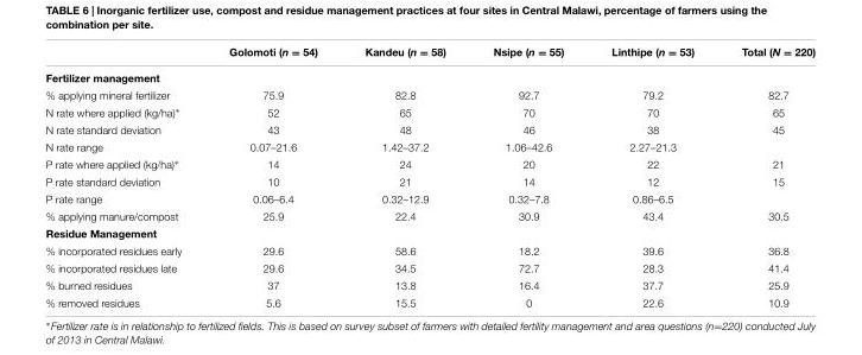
<table><thead><tr><td></td><td>Golomoti (n = 54)</td><td>Kandeu (n = 58)</td><td>Nsipe (n = 55)</td><td>Linthipe (n = 53)</td><td>Total (N = 220)</td></tr></thead><tbody><tr><td colspan="6">Fertilizer management</td></tr><tr><td>% applying mineral fertilizer</td><td>75.9</td><td>82.8</td><td>92.7</td><td>79.2</td><td>82.7</td></tr><tr><td>N rate where applied (kg/ha)∗</td><td>52</td><td>65</td><td>70</td><td>70</td><td>65</td></tr><tr><td>N rate standard deviation</td><td>43</td><td>48</td><td>46</td><td>38</td><td>45</td></tr><tr><td>N rate range</td><td>0.07–21.6</td><td>1.42–37.2</td><td>1.06–42.6</td><td>2.27–21.3</td><td></td></tr><tr><td>P rate where applied (kg/ha)∗</td><td>14</td><td>24</td><td>20</td><td>22</td><td>21</td></tr><tr><td>P rate standard deviation</td><td>10</td><td>21</td><td>14</td><td>12</td><td>15</td></tr><tr><td>P rate range</td><td>0.06–6.4</td><td>0.32–12.9</td><td>0.32–7.8</td><td>0.86–6.5</td><td></td></tr><tr><td>% applying manure/compost</td><td>25.9</td><td>22.4</td><td>30.9</td><td>43.4</td><td>30.5</td></tr><tr><td colspan="6">Residue Management</td></tr><tr><td>% incorporated residues early</td><td>29.6</td><td>58.6</td><td>18.2</td><td>39.6</td><td>36.8</td></tr><tr><td>% incorporated residues late</td><td>29.6</td><td>34.5</td><td>72.7</td><td>28.3</td><td>41.4</td></tr><tr><td>% burned residues</td><td>37</td><td>13.8</td><td>16.4</td><td>37.7</td><td>25.9</td></tr><tr><td>% removed residues</td><td>5.6</td><td>15.5</td><td>0</td><td>22.6</td><td>10.9</td></tr></tbody></table>